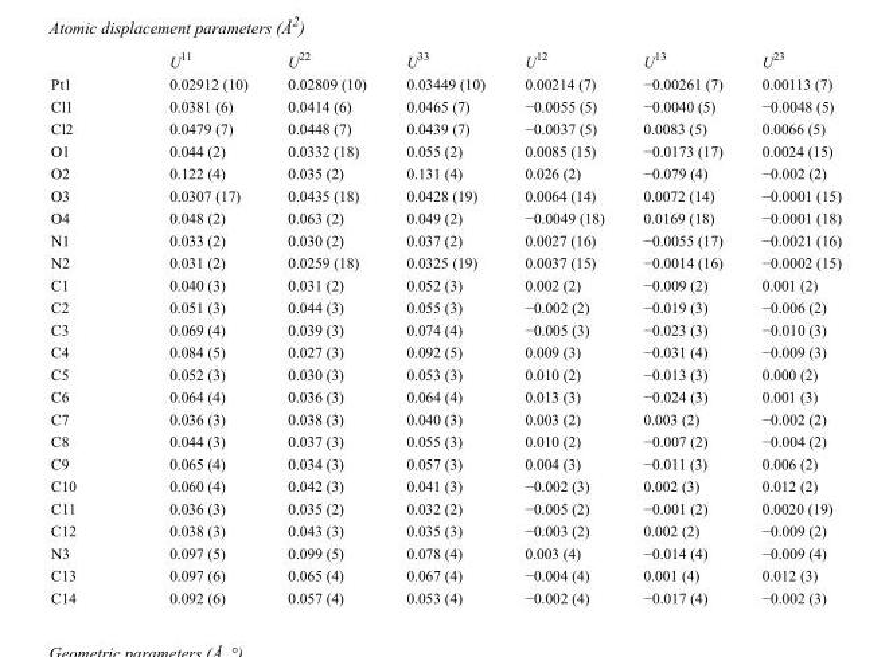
<table><thead><tr><td></td><td>U<sup>11</sup></td><td>U<sup>22</sup></td><td>U<sup>33</sup></td><td>U<sup>12</sup></td><td>U<sup>13</sup></td><td>U<sup>23</sup></td></tr></thead><tbody><tr><td>Pt1</td><td>0.02912 (10)</td><td>0.02809 (10)</td><td>0.03449 (10)</td><td>0.00214 (7)</td><td>−0.00261 (7)</td><td>0.00113 (7)</td></tr><tr><td>Cl1</td><td>0.0381 (6)</td><td>0.0414 (6)</td><td>0.0465 (7)</td><td>−0.0055 (5)</td><td>−0.0040 (5)</td><td>−0.0048 (5)</td></tr><tr><td>Cl2</td><td>0.0479 (7)</td><td>0.0448 (7)</td><td>0.0439 (7)</td><td>−0.0037 (5)</td><td>0.0083 (5)</td><td>0.0066 (5)</td></tr><tr><td>O1</td><td>0.044 (2)</td><td>0.0332 (18)</td><td>0.055 (2)</td><td>0.0085 (15)</td><td>−0.0173 (17)</td><td>0.0024 (15)</td></tr><tr><td>O2</td><td>0.122 (4)</td><td>0.035 (2)</td><td>0.131 (4)</td><td>0.026 (2)</td><td>−0.079 (4)</td><td>−0.002 (2)</td></tr><tr><td>O3</td><td>0.0307 (17)</td><td>0.0435 (18)</td><td>0.0428 (19)</td><td>0.0064 (14)</td><td>0.0072 (14)</td><td>−0.0001 (15)</td></tr><tr><td>O4</td><td>0.048 (2)</td><td>0.063 (2)</td><td>0.049 (2)</td><td>−0.0049 (18)</td><td>0.0169 (18)</td><td>−0.0001 (18)</td></tr><tr><td>N1</td><td>0.033 (2)</td><td>0.030 (2)</td><td>0.037 (2)</td><td>0.0027 (16)</td><td>−0.0055 (17)</td><td>−0.0021 (16)</td></tr><tr><td>N2</td><td>0.031 (2)</td><td>0.0259 (18)</td><td>0.0325 (19)</td><td>0.0037 (15)</td><td>−0.0014 (16)</td><td>−0.0002 (15)</td></tr><tr><td>C1</td><td>0.040 (3)</td><td>0.031 (2)</td><td>0.052 (3)</td><td>0.002 (2)</td><td>−0.009 (2)</td><td>0.001 (2)</td></tr><tr><td>C2</td><td>0.051 (3)</td><td>0.044 (3)</td><td>0.055 (3)</td><td>−0.002 (2)</td><td>−0.019 (3)</td><td>−0.006 (2)</td></tr><tr><td>C3</td><td>0.069 (4)</td><td>0.039 (3)</td><td>0.074 (4)</td><td>−0.005 (3)</td><td>−0.023 (3)</td><td>−0.010 (3)</td></tr><tr><td>C4</td><td>0.084 (5)</td><td>0.027 (3)</td><td>0.092 (5)</td><td>0.009 (3)</td><td>−0.031 (4)</td><td>−0.009 (3)</td></tr><tr><td>C5</td><td>0.052 (3)</td><td>0.030 (3)</td><td>0.053 (3)</td><td>0.010 (2)</td><td>−0.013 (3)</td><td>0.000 (2)</td></tr><tr><td>C6</td><td>0.064 (4)</td><td>0.036 (3)</td><td>0.064 (4)</td><td>0.013 (3)</td><td>−0.024 (3)</td><td>0.001 (3)</td></tr><tr><td>C7</td><td>0.036 (3)</td><td>0.038 (3)</td><td>0.040 (3)</td><td>0.003 (2)</td><td>0.003 (2)</td><td>−0.002 (2)</td></tr><tr><td>C8</td><td>0.044 (3)</td><td>0.037 (3)</td><td>0.055 (3)</td><td>0.010 (2)</td><td>−0.007 (2)</td><td>−0.004 (2)</td></tr><tr><td>C9</td><td>0.065 (4)</td><td>0.034 (3)</td><td>0.057 (3)</td><td>0.004 (3)</td><td>−0.011 (3)</td><td>0.006 (2)</td></tr><tr><td>C10</td><td>0.060 (4)</td><td>0.042 (3)</td><td>0.041 (3)</td><td>−0.002 (3)</td><td>0.002 (3)</td><td>0.012 (2)</td></tr><tr><td>C11</td><td>0.036 (3)</td><td>0.035 (2)</td><td>0.032 (2)</td><td>−0.005 (2)</td><td>−0.001 (2)</td><td>0.0020 (19)</td></tr><tr><td>C12</td><td>0.038 (3)</td><td>0.043 (3)</td><td>0.035 (3)</td><td>−0.003 (2)</td><td>0.002 (2)</td><td>−0.009 (2)</td></tr><tr><td>N3</td><td>0.097 (5)</td><td>0.099 (5)</td><td>0.078 (4)</td><td>0.003 (4)</td><td>−0.014 (4)</td><td>−0.009 (4)</td></tr><tr><td>C13</td><td>0.097 (6)</td><td>0.065 (4)</td><td>0.067 (4)</td><td>−0.004 (4)</td><td>0.001 (4)</td><td>0.012 (3)</td></tr><tr><td>C14</td><td>0.092 (6)</td><td>0.057 (4)</td><td>0.053 (4)</td><td>−0.002 (4)</td><td>−0.017 (4)</td><td>−0.002 (3)</td></tr></tbody></table>